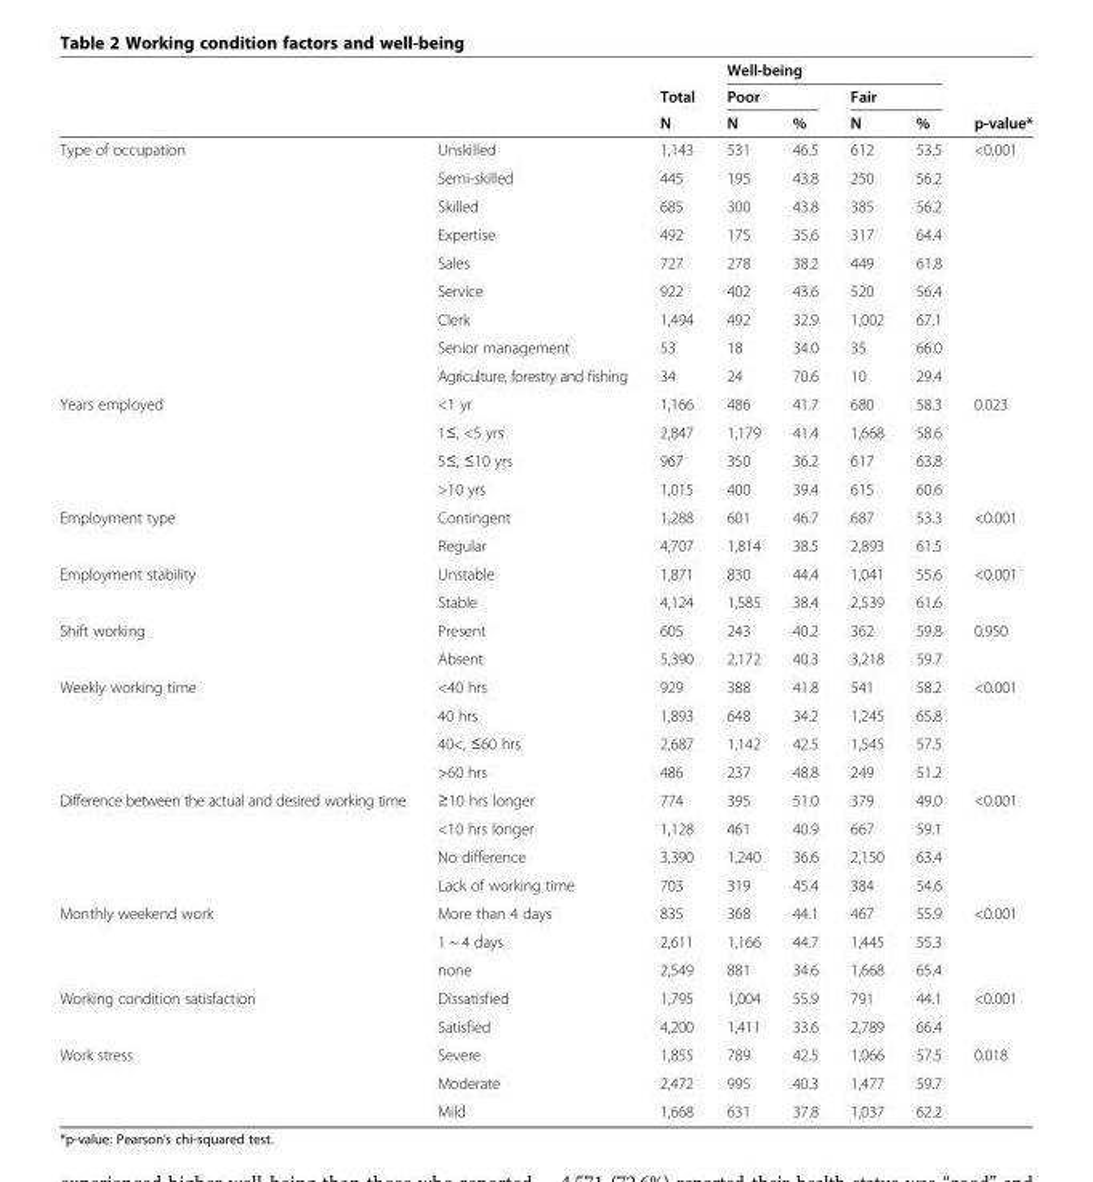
<table><thead><tr><td rowspan="3"></td><td rowspan="3"></td><td rowspan="3">Total N</td><td colspan="4">Well-being</td><td rowspan="3">p-value*</td></tr><tr><td colspan="2">Poor</td><td colspan="2">Fair</td></tr><tr><td>N</td><td>%</td><td>N</td><td>%</td></tr></thead><tbody><tr><td rowspan="9">Type of occupation</td><td>Unskilled</td><td>1,143</td><td>531</td><td>46.5</td><td>612</td><td>53.5</td><td rowspan="9">&lt;0.001</td></tr><tr><td>Semi-skilled</td><td>445</td><td>195</td><td>43.8</td><td>250</td><td>56.2</td></tr><tr><td>Skilled</td><td>685</td><td>300</td><td>43.8</td><td>385</td><td>56.2</td></tr><tr><td>Expertise</td><td>492</td><td>175</td><td>35.6</td><td>317</td><td>64.4</td></tr><tr><td>Sales</td><td>727</td><td>278</td><td>38.2</td><td>449</td><td>61.8</td></tr><tr><td>Service</td><td>922</td><td>402</td><td>43.6</td><td>520</td><td>56.4</td></tr><tr><td>Clerk</td><td>1,494</td><td>492</td><td>32.9</td><td>1,002</td><td>67.1</td></tr><tr><td>Senior management</td><td>53</td><td>18</td><td>34.0</td><td>35</td><td>66.0</td></tr><tr><td>Agriculture, forestry and fishing</td><td>34</td><td>24</td><td>70.6</td><td>10</td><td>29.4</td></tr><tr><td rowspan="4">Years employed</td><td>&lt;1 yr</td><td>1,166</td><td>486</td><td>41.7</td><td>680</td><td>58.3</td><td rowspan="4">0.023</td></tr><tr><td>1≤, &lt;5 yrs</td><td>2,847</td><td>1,179</td><td>41.4</td><td>1,668</td><td>58.6</td></tr><tr><td>5≤, ≤10 yrs</td><td>967</td><td>350</td><td>36.2</td><td>617</td><td>63.8</td></tr><tr><td>&gt;10 yrs</td><td>1,015</td><td>400</td><td>39.4</td><td>615</td><td>60.6</td></tr><tr><td rowspan="2">Employment type</td><td>Contingent</td><td>1,288</td><td>601</td><td>46.7</td><td>687</td><td>53.3</td><td rowspan="2">&lt;0.001</td></tr><tr><td>Regular</td><td>4,707</td><td>1,814</td><td>38.5</td><td>2,893</td><td>61.5</td></tr><tr><td rowspan="2">Employment stability</td><td>Unstable</td><td>1,871</td><td>830</td><td>44.4</td><td>1,041</td><td>55.6</td><td rowspan="2">&lt;0.001</td></tr><tr><td>Stable</td><td>4,124</td><td>1,585</td><td>38.4</td><td>2,539</td><td>61.6</td></tr><tr><td rowspan="2">Shift working</td><td>Present</td><td>605</td><td>243</td><td>40.2</td><td>362</td><td>59.8</td><td rowspan="2">0.950</td></tr><tr><td>Absent</td><td>5,390</td><td>2,172</td><td>40.3</td><td>3,218</td><td>59.7</td></tr><tr><td rowspan="4">Weekly working time</td><td>&lt;40 hrs</td><td>929</td><td>388</td><td>41.8</td><td>541</td><td>58.2</td><td rowspan="4">&lt;0.001</td></tr><tr><td>40 hrs</td><td>1,893</td><td>648</td><td>34.2</td><td>1,245</td><td>65.8</td></tr><tr><td>40&lt;, ≤60 hrs</td><td>2,687</td><td>1,142</td><td>42.5</td><td>1,545</td><td>57.5</td></tr><tr><td>&gt;60 hrs</td><td>486</td><td>237</td><td>48.8</td><td>249</td><td>51.2</td></tr><tr><td rowspan="4">Difference between the actual and desired working time</td><td>≥10 hrs longer</td><td>774</td><td>395</td><td>51.0</td><td>379</td><td>49.0</td><td rowspan="4">&lt;0.001</td></tr><tr><td>&lt;10 hrs longer</td><td>1,128</td><td>461</td><td>40.9</td><td>667</td><td>59.1</td></tr><tr><td>No difference</td><td>3,390</td><td>1,240</td><td>36.6</td><td>2,150</td><td>63.4</td></tr><tr><td>Lack of working time</td><td>703</td><td>319</td><td>45.4</td><td>384</td><td>54.6</td></tr><tr><td rowspan="3">Monthly weekend work</td><td>More than 4 days</td><td>835</td><td>368</td><td>44.1</td><td>467</td><td>55.9</td><td rowspan="3">&lt;0.001</td></tr><tr><td>1 ~ 4 days</td><td>2,611</td><td>1,166</td><td>44.7</td><td>1,445</td><td>55.3</td></tr><tr><td>none</td><td>2,549</td><td>881</td><td>34.6</td><td>1,668</td><td>65.4</td></tr><tr><td rowspan="2">Working condition satisfaction</td><td>Dissatisfied</td><td>1,795</td><td>1,004</td><td>55.9</td><td>791</td><td>44.1</td><td rowspan="2">&lt;0.001</td></tr><tr><td>Satisfied</td><td>4,200</td><td>1,411</td><td>33.6</td><td>2,789</td><td>66.4</td></tr><tr><td rowspan="3">Work stress</td><td>Severe</td><td>1,855</td><td>789</td><td>42.5</td><td>1,066</td><td>57.5</td><td rowspan="3">0.018</td></tr><tr><td>Moderate</td><td>2,472</td><td>995</td><td>40.3</td><td>1,477</td><td>59.7</td></tr><tr><td>Mild</td><td>1,668</td><td>631</td><td>37.8</td><td>1,037</td><td>62.2</td></tr></tbody></table>